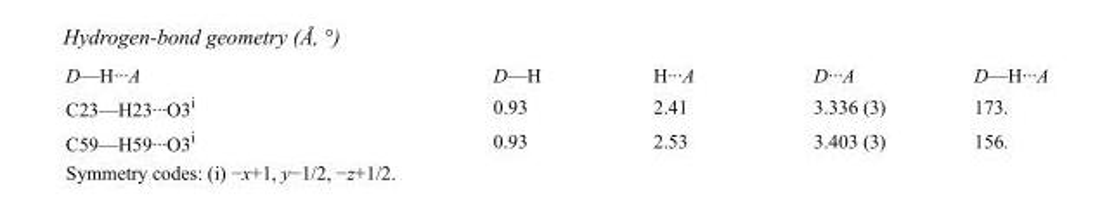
<table><tbody><tr><td>D—H···A</td><td>D—H</td><td>H···A</td><td>D···A</td><td>D—H···A</td></tr><tr><td>C23—H23···O3<sup>i</sup></td><td>0.93</td><td>2.41</td><td>3.336 (3)</td><td>173.</td></tr><tr><td>C59—H59···O3<sup>i</sup></td><td>0.93</td><td>2.53</td><td>3.403 (3)</td><td>156.</td></tr></tbody></table>